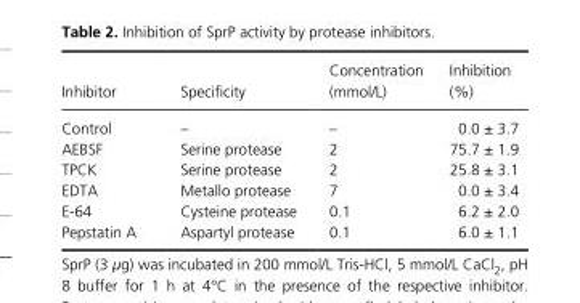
<table><thead><tr><td>Inhibitor</td><td>Specificity</td><td>Concentration (mmol/L)</td><td>Inhibition (%)</td></tr></thead><tbody><tr><td>Control</td><td>–</td><td>–</td><td>0.0 ± 3.7</td></tr><tr><td>AEBSF</td><td>Serine protease</td><td>2</td><td>75.7 ± 1.9</td></tr><tr><td>TPCK</td><td>Serine protease</td><td>2</td><td>25.8 ± 3.1</td></tr><tr><td>EDTA</td><td>Metallo protease</td><td>7</td><td>0.0 ± 3.4</td></tr><tr><td>E- 64</td><td>Cysteine protease</td><td>0.1</td><td>6.2 ± 2.0</td></tr><tr><td>Pepstatin A</td><td>Aspartyl protease</td><td>0.1</td><td>6.0 ± 1.1</td></tr></tbody></table>